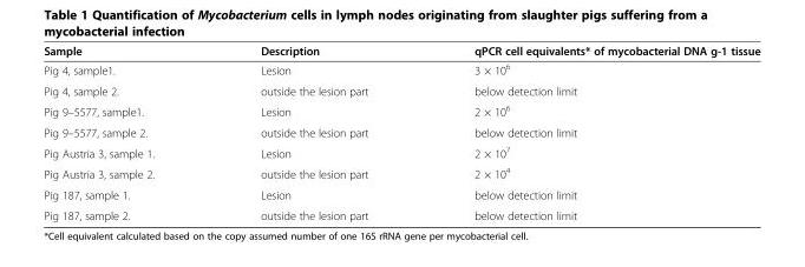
<table><thead><tr><td>Sample</td><td>Description</td><td>qPCR cell equivalents* of mycobacterial DNA g-1 tissue</td></tr></thead><tbody><tr><td>Pig 4, sample1.</td><td>Lesion</td><td>3 × 10<sup>6</sup></td></tr><tr><td>Pig 4, sample 2.</td><td>outside the lesion part</td><td>below detection limit</td></tr><tr><td>Pig 9–5577, sample1.</td><td>Lesion</td><td>2 × 10<sup>6</sup></td></tr><tr><td>Pig 9–5577, sample 2.</td><td>outside the lesion part</td><td>below detection limit</td></tr><tr><td>Pig Austria 3, sample 1.</td><td>Lesion</td><td>2 × 10<sup>7</sup></td></tr><tr><td>Pig Austria 3, sample 2.</td><td>outside the lesion part</td><td>2 × 10<sup>4</sup></td></tr><tr><td>Pig 187, sample 1.</td><td>Lesion</td><td>below detection limit</td></tr><tr><td>Pig 187, sample 2.</td><td>outside the lesion part</td><td>below detection limit</td></tr></tbody></table>